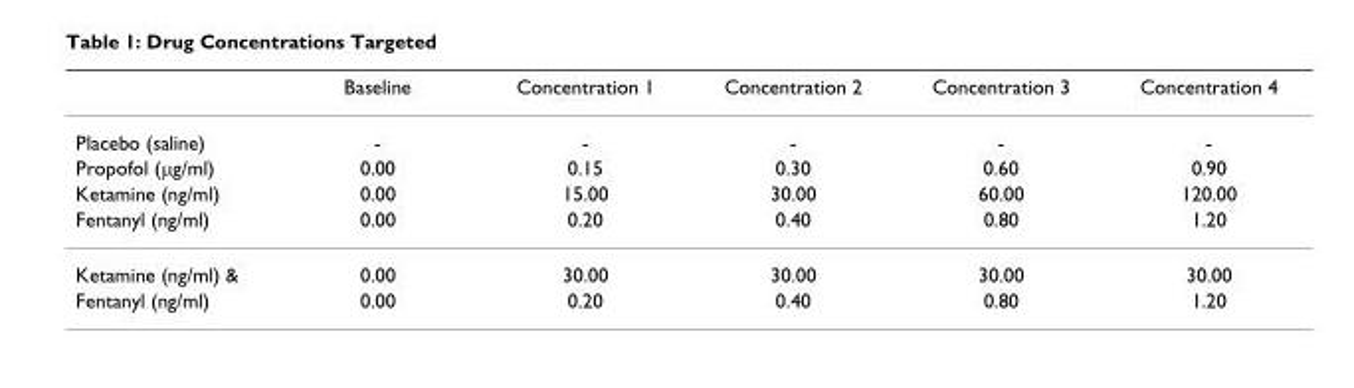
<table><thead><tr><td></td><td>Baseline</td><td>Concentration 1</td><td>Concentration 2</td><td>Concentration 3</td><td>Concentration 4</td></tr></thead><tbody><tr><td>Placebo (saline)</td><td>-</td><td>-</td><td>-</td><td>-</td><td>-</td></tr><tr><td>Propofol (µg/ml)</td><td>0.00</td><td>0.15</td><td>0.30</td><td>0.60</td><td>0.90</td></tr><tr><td>Ketamine (ng/ml)</td><td>0.00</td><td>15.00</td><td>30.00</td><td>60.00</td><td>120.00</td></tr><tr><td>Fentanyl (ng/ml)</td><td>0.00</td><td>0.20</td><td>0.40</td><td>0.80</td><td>1.20</td></tr><tr><td>Ketamine (ng/ml) &amp;</td><td>0.00</td><td>30.00</td><td>30.00</td><td>30.00</td><td>30.00</td></tr><tr><td>Fentanyl (ng/ml)</td><td>0.00</td><td>0.20</td><td>0.40</td><td>0.80</td><td>1.20</td></tr></tbody></table>